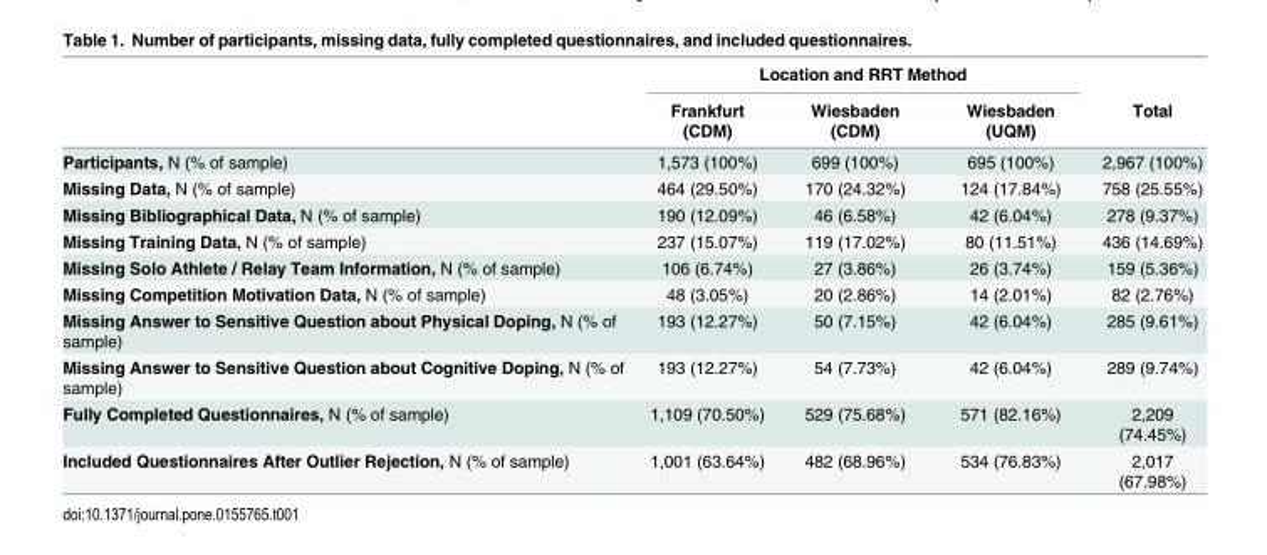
<table><thead><tr><td rowspan="2"></td><td colspan="3">Location and RRT Method</td><td rowspan="2">Total</td></tr><tr><td>Frankfurt (CDM)</td><td>Wiesbaden (CDM)</td><td>Wiesbaden (UQM)</td></tr></thead><tbody><tr><td>Participants, N (% of sample)</td><td>1,573 (100%)</td><td>699 (100%)</td><td>695 (100%)</td><td>2,967 (100%)</td></tr><tr><td>Missing Data, N (% of sample)</td><td>464 (29.50%)</td><td>170 (24.32%)</td><td>124 (17.84%)</td><td>758 (25.55%)</td></tr><tr><td>Missing Bibliographical Data, N (% of sample)</td><td>190 (12.09%)</td><td>46 (6.58%)</td><td>42 (6.04%)</td><td>278 (9.37%)</td></tr><tr><td>Missing Training Data, N (% of sample)</td><td>237 (15.07%)</td><td>119 (17.02%)</td><td>80 (11.51%)</td><td>436 (14.69%)</td></tr><tr><td>Missing Solo Athlete / Relay Team Information, N (% of sample)</td><td>106 (6.74%)</td><td>27 (3.86%)</td><td>26 (3.74%)</td><td>159 (5.36%)</td></tr><tr><td>Missing Competition Motivation Data, N (% of sample)</td><td>48 (3.05%)</td><td>20 (2.86%)</td><td>14 (2.01%)</td><td>82 (2.76%)</td></tr><tr><td>Missing Answer to Sensitive Question about Physical Doping, N (% of sample)</td><td>193 (12.27%)</td><td>50 (7.15%)</td><td>42 (6.04%)</td><td>285 (9.61%)</td></tr><tr><td>Missing Answer to Sensitive Question about Cognitive Doping, N (% of sample)</td><td>193 (12.27%)</td><td>54 (7.73%)</td><td>42 (6.04%)</td><td>289 (9.74%)</td></tr><tr><td>Fully Completed Questionnaires, N (% of sample)</td><td>1,109 (70.50%)</td><td>529 (75.68%)</td><td>571 (82.16%)</td><td>2,209 (74.45%)</td></tr><tr><td>Included Questionnaires After Outlier Rejection, N (% of sample)</td><td>1,001 (63.64%)</td><td>482 (68.96%)</td><td>534 (76.83%)</td><td>2,017 (67.98%)</td></tr></tbody></table>